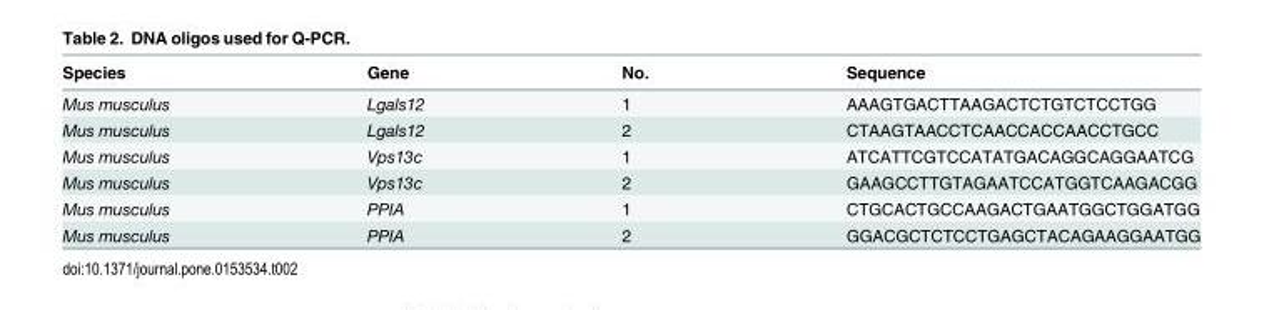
<table><thead><tr><td>Species</td><td>Gene</td><td>No.</td><td>Sequence</td></tr></thead><tbody><tr><td>Mus musculus</td><td>Lgals12</td><td>1</td><td>AAAGTGACTTAAGACTCTGTCTCCTGG</td></tr><tr><td>Mus musculus</td><td>Lgals12</td><td>2</td><td>CTAAGTAACCTCAACCACCAACCTGCC</td></tr><tr><td>Mus musculus</td><td>Vps13c</td><td>1</td><td>ATCATTCGTCCATATGACAGGCAGGAATCG</td></tr><tr><td>Mus musculus</td><td>Vps13c</td><td>2</td><td>GAAGCCTTGTAGAATCCATGGTCAAGACGG</td></tr><tr><td>Mus musculus</td><td>PPIA</td><td>1</td><td>CTGCACTGCCAAGACTGAATGGCTGGATGG</td></tr><tr><td>Mus musculus</td><td>PPIA</td><td>2</td><td>GGACGCTCTCCTGAGCTACAGAAGGAATGG</td></tr></tbody></table>